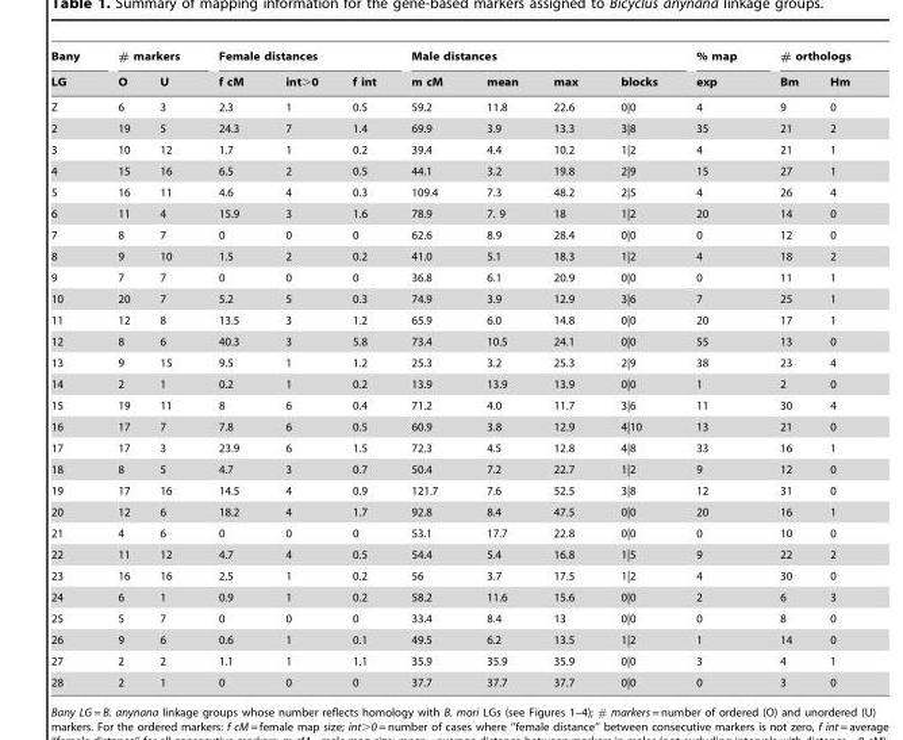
<table><thead><tr><td rowspan="2">Bany LG</td><td colspan="2"># markers</td><td colspan="3">Female distances</td><td colspan="4">Male distances</td><td rowspan="2">% map exp</td><td colspan="2"># orthologs</td></tr><tr><td>O</td><td>U</td><td>f cM</td><td>int&gt;0</td><td>f int</td><td>m cM</td><td>mean</td><td>max</td><td>blocks</td><td>Bm</td><td>Hm</td></tr></thead><tbody><tr><td>Z</td><td>6</td><td>3</td><td>2.3</td><td>1</td><td>0.5</td><td>59.2</td><td>11.8</td><td>22.6</td><td>0|0</td><td>4</td><td>9</td><td>0</td></tr><tr><td>2</td><td>19</td><td>5</td><td>24.3</td><td>7</td><td>1.4</td><td>69.9</td><td>3.9</td><td>13.3</td><td>3|8</td><td>35</td><td>21</td><td>2</td></tr><tr><td>3</td><td>10</td><td>12</td><td>1.7</td><td>1</td><td>0.2</td><td>39.4</td><td>4.4</td><td>10.2</td><td>1|2</td><td>4</td><td>21</td><td>1</td></tr><tr><td>4</td><td>15</td><td>16</td><td>6.5</td><td>2</td><td>0.5</td><td>44.1</td><td>3.2</td><td>19.8</td><td>2|9</td><td>15</td><td>27</td><td>1</td></tr><tr><td>5</td><td>16</td><td>11</td><td>4.6</td><td>4</td><td>0.3</td><td>109.4</td><td>7.3</td><td>48.2</td><td>2|5</td><td>4</td><td>26</td><td>4</td></tr><tr><td>6</td><td>11</td><td>4</td><td>15.9</td><td>3</td><td>1.6</td><td>78.9</td><td>7. 9</td><td>18</td><td>1|2</td><td>20</td><td>14</td><td>0</td></tr><tr><td>7</td><td>8</td><td>7</td><td>0</td><td>0</td><td>0</td><td>62.6</td><td>8.9</td><td>28.4</td><td>0|0</td><td>0</td><td>12</td><td>0</td></tr><tr><td>8</td><td>9</td><td>10</td><td>1.5</td><td>2</td><td>0.2</td><td>41.0</td><td>5.1</td><td>18.3</td><td>1|2</td><td>4</td><td>18</td><td>2</td></tr><tr><td>9</td><td>7</td><td>7</td><td>0</td><td>0</td><td>0</td><td>36.8</td><td>6.1</td><td>20.9</td><td>0|0</td><td>0</td><td>11</td><td>1</td></tr><tr><td>10</td><td>20</td><td>7</td><td>5.2</td><td>5</td><td>0.3</td><td>74.9</td><td>3.9</td><td>12.9</td><td>3|6</td><td>7</td><td>25</td><td>1</td></tr><tr><td>11</td><td>12</td><td>8</td><td>13.5</td><td>3</td><td>1.2</td><td>65.9</td><td>6.0</td><td>14.8</td><td>0|0</td><td>20</td><td>17</td><td>1</td></tr><tr><td>12</td><td>8</td><td>6</td><td>40.3</td><td>3</td><td>5.8</td><td>73.4</td><td>10.5</td><td>24.1</td><td>0|0</td><td>55</td><td>13</td><td>0</td></tr><tr><td>13</td><td>9</td><td>15</td><td>9.5</td><td>1</td><td>1.2</td><td>25.3</td><td>3.2</td><td>25.3</td><td>2|9</td><td>38</td><td>23</td><td>4</td></tr><tr><td>14</td><td>2</td><td>1</td><td>0.2</td><td>1</td><td>0.2</td><td>13.9</td><td>13.9</td><td>13.9</td><td>0|0</td><td>1</td><td>2</td><td>0</td></tr><tr><td>15</td><td>19</td><td>11</td><td>8</td><td>6</td><td>0.4</td><td>71.2</td><td>4.0</td><td>11.7</td><td>3|6</td><td>11</td><td>30</td><td>4</td></tr><tr><td>16</td><td>17</td><td>7</td><td>7.8</td><td>6</td><td>0.5</td><td>60.9</td><td>3.8</td><td>12.9</td><td>4|10</td><td>13</td><td>21</td><td>0</td></tr><tr><td>17</td><td>17</td><td>3</td><td>23.9</td><td>6</td><td>1.5</td><td>72.3</td><td>4.5</td><td>12.8</td><td>4|8</td><td>33</td><td>16</td><td>1</td></tr><tr><td>18</td><td>8</td><td>5</td><td>4.7</td><td>3</td><td>0.7</td><td>50.4</td><td>7.2</td><td>22.7</td><td>1|2</td><td>9</td><td>12</td><td>0</td></tr><tr><td>19</td><td>17</td><td>16</td><td>14.5</td><td>4</td><td>0.9</td><td>121.7</td><td>7.6</td><td>52.5</td><td>3|8</td><td>12</td><td>31</td><td>0</td></tr><tr><td>20</td><td>12</td><td>6</td><td>18.2</td><td>4</td><td>1.7</td><td>92.8</td><td>8.4</td><td>47.5</td><td>0|0</td><td>20</td><td>16</td><td>1</td></tr><tr><td>21</td><td>4</td><td>6</td><td>0</td><td>0</td><td>0</td><td>53.1</td><td>17.7</td><td>22.8</td><td>0|0</td><td>0</td><td>10</td><td>0</td></tr><tr><td>22</td><td>11</td><td>12</td><td>4.7</td><td>4</td><td>0.5</td><td>54.4</td><td>5.4</td><td>16.8</td><td>1|5</td><td>9</td><td>22</td><td>2</td></tr><tr><td>23</td><td>16</td><td>16</td><td>2.5</td><td>1</td><td>0.2</td><td>56</td><td>3.7</td><td>17.5</td><td>1|2</td><td>4</td><td>30</td><td>0</td></tr><tr><td>24</td><td>6</td><td>1</td><td>0.9</td><td>1</td><td>0.2</td><td>58.2</td><td>11.6</td><td>15.6</td><td>0|0</td><td>2</td><td>6</td><td>3</td></tr><tr><td>25</td><td>5</td><td>7</td><td>0</td><td>0</td><td>0</td><td>33.4</td><td>8.4</td><td>13</td><td>0|0</td><td>0</td><td>8</td><td>0</td></tr><tr><td>26</td><td>9</td><td>6</td><td>0.6</td><td>1</td><td>0.1</td><td>49.5</td><td>6.2</td><td>13.5</td><td>1|2</td><td>1</td><td>14</td><td>0</td></tr><tr><td>27</td><td>2</td><td>2</td><td>1.1</td><td>1</td><td>1.1</td><td>35.9</td><td>35.9</td><td>35.9</td><td>0|0</td><td>3</td><td>4</td><td>1</td></tr><tr><td>28</td><td>2</td><td>1</td><td>0</td><td>0</td><td>0</td><td>37.7</td><td>37.7</td><td>37.7</td><td>0|0</td><td>0</td><td>3</td><td>0</td></tr></tbody></table>